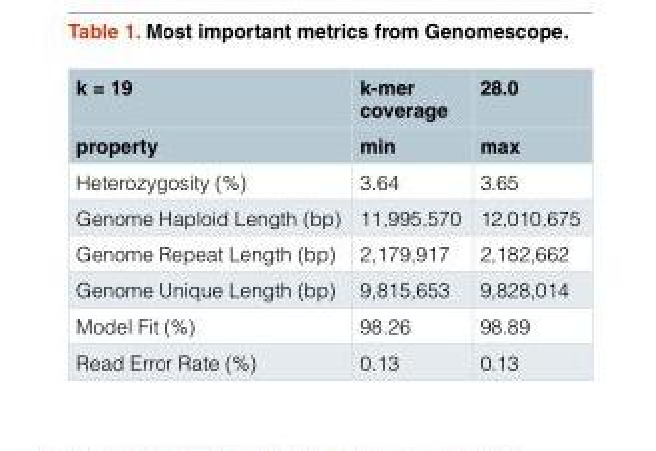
<table><thead><tr><td rowspan="2">k = 19 property</td><td rowspan="2">k-mer coverage min</td><td rowspan="2">28.0 max</td></tr><tr></tr></thead><tbody><tr><td>Heterozygosity (%)</td><td>3.64</td><td>3.65</td></tr><tr><td>Genome Haploid Length (bp)</td><td>11,995,570</td><td>12,010,675</td></tr><tr><td>Genome Repeat Length (bp)</td><td>2,179,917</td><td>2,182,662</td></tr><tr><td>Genome Unique Length (bp)</td><td>9,815,653</td><td>9,828,014</td></tr><tr><td>Model Fit (%)</td><td>98.26</td><td>98.89</td></tr><tr><td>Read Error Rate (%)</td><td>0.13</td><td>0.13</td></tr></tbody></table>